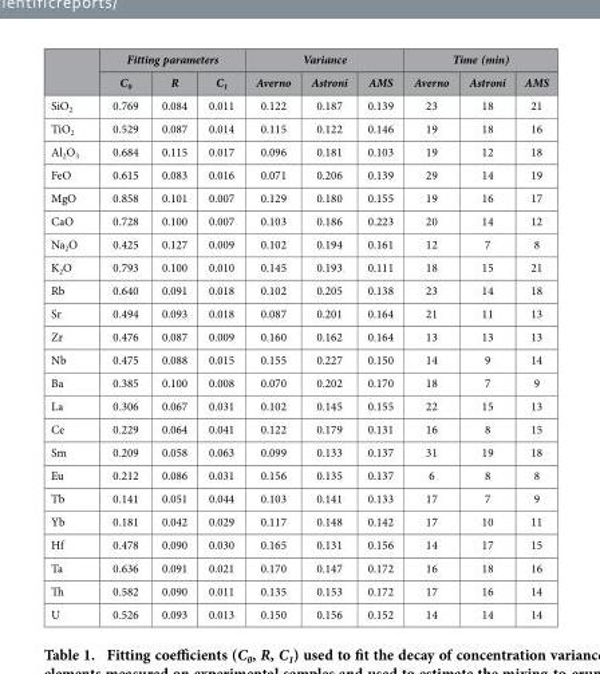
<table><thead><tr><td rowspan="2"></td><td colspan="3">Fitting parameters</td><td colspan="3">Variance</td><td colspan="3">Time (min)</td></tr><tr><td>C<sub>0</sub></td><td>R</td><td>C<sub>1</sub></td><td>Averno</td><td>Astroni</td><td>AMS</td><td>Averno</td><td>Astroni</td><td>AMS</td></tr></thead><tbody><tr><td>SiO<sub>2</sub></td><td>0.769</td><td>0.084</td><td>0.011</td><td>0.122</td><td>0.187</td><td>0.139</td><td>23</td><td>18</td><td>21</td></tr><tr><td>TiO<sub>2</sub></td><td>0.529</td><td>0.087</td><td>0.014</td><td>0.115</td><td>0.122</td><td>0.146</td><td>19</td><td>18</td><td>16</td></tr><tr><td>Al<sub>2</sub>O<sub>3</sub></td><td>0.684</td><td>0.115</td><td>0.017</td><td>0.096</td><td>0.181</td><td>0.103</td><td>19</td><td>12</td><td>18</td></tr><tr><td>FeO</td><td>0.615</td><td>0.083</td><td>0.016</td><td>0.071</td><td>0.206</td><td>0.139</td><td>29</td><td>14</td><td>19</td></tr><tr><td>MgO</td><td>0.858</td><td>0.101</td><td>0.007</td><td>0.129</td><td>0.180</td><td>0.155</td><td>19</td><td>16</td><td>17</td></tr><tr><td>CaO</td><td>0.728</td><td>0.100</td><td>0.007</td><td>0.103</td><td>0.186</td><td>0.223</td><td>20</td><td>14</td><td>12</td></tr><tr><td>Na<sub>2</sub>O</td><td>0.425</td><td>0.127</td><td>0.009</td><td>0.102</td><td>0.194</td><td>0.161</td><td>12</td><td>7</td><td>8</td></tr><tr><td>K<sub>2</sub>O</td><td>0.793</td><td>0.100</td><td>0.010</td><td>0.145</td><td>0.193</td><td>0.111</td><td>18</td><td>15</td><td>21</td></tr><tr><td>Rb</td><td>0.640</td><td>0.091</td><td>0.018</td><td>0.102</td><td>0.205</td><td>0.138</td><td>23</td><td>14</td><td>18</td></tr><tr><td>Sr</td><td>0.494</td><td>0.093</td><td>0.018</td><td>0.087</td><td>0.201</td><td>0.164</td><td>21</td><td>11</td><td>13</td></tr><tr><td>Zr</td><td>0.476</td><td>0.087</td><td>0.009</td><td>0.160</td><td>0.162</td><td>0.164</td><td>13</td><td>13</td><td>13</td></tr><tr><td>Nb</td><td>0.475</td><td>0.088</td><td>0.015</td><td>0.155</td><td>0.227</td><td>0.150</td><td>14</td><td>9</td><td>14</td></tr><tr><td>Ba</td><td>0.385</td><td>0.100</td><td>0.008</td><td>0.070</td><td>0.202</td><td>0.170</td><td>18</td><td>7</td><td>9</td></tr><tr><td>La</td><td>0.306</td><td>0.067</td><td>0.031</td><td>0.102</td><td>0.145</td><td>0.155</td><td>22</td><td>15</td><td>13</td></tr><tr><td>Ce</td><td>0.229</td><td>0.064</td><td>0.041</td><td>0.122</td><td>0.179</td><td>0.131</td><td>16</td><td>8</td><td>15</td></tr><tr><td>Sm</td><td>0.209</td><td>0.058</td><td>0.063</td><td>0.099</td><td>0.133</td><td>0.137</td><td>31</td><td>19</td><td>18</td></tr><tr><td>Eu</td><td>0.212</td><td>0.086</td><td>0.031</td><td>0.156</td><td>0.135</td><td>0.137</td><td>6</td><td>8</td><td>8</td></tr><tr><td>Tb</td><td>0.141</td><td>0.051</td><td>0.044</td><td>0.103</td><td>0.141</td><td>0.133</td><td>17</td><td>7</td><td>9</td></tr><tr><td>Yb</td><td>0.181</td><td>0.042</td><td>0.029</td><td>0.117</td><td>0.148</td><td>0.142</td><td>17</td><td>10</td><td>11</td></tr><tr><td>Hf</td><td>0.478</td><td>0.090</td><td>0.030</td><td>0.165</td><td>0.131</td><td>0.156</td><td>14</td><td>17</td><td>15</td></tr><tr><td>Ta</td><td>0.636</td><td>0.091</td><td>0.021</td><td>0.170</td><td>0.147</td><td>0.172</td><td>16</td><td>18</td><td>16</td></tr><tr><td>Th</td><td>0.582</td><td>0.090</td><td>0.011</td><td>0.135</td><td>0.153</td><td>0.172</td><td>17</td><td>16</td><td>14</td></tr><tr><td>U</td><td>0.526</td><td>0.093</td><td>0.013</td><td>0.150</td><td>0.156</td><td>0.152</td><td>14</td><td>14</td><td>14</td></tr></tbody></table>